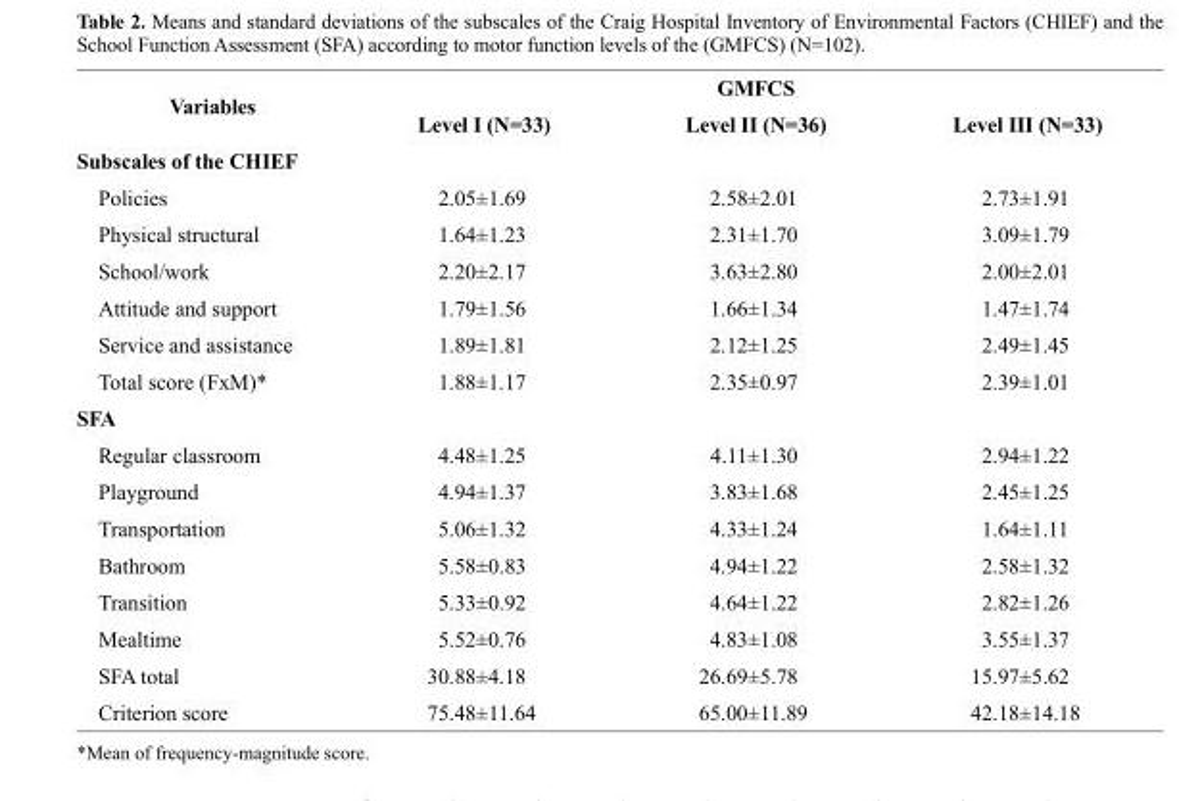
<table><thead><tr><td rowspan="2">Variables</td><td colspan="3">GMFCS</td></tr><tr><td>Level I (N=33)</td><td>Level II (N=36)</td><td>Level III (N=33)</td></tr></thead><tbody><tr><td colspan="4">Subscales of the CHIEF</td></tr><tr><td>Policies</td><td>2.05±1.69</td><td>2.58±2.01</td><td>2.73±1.91</td></tr><tr><td>Physical structural</td><td>1.64±1.23</td><td>2.31±1.70</td><td>3.09±1.79</td></tr><tr><td>School/work</td><td>2.20±2.17</td><td>3.63±2.80</td><td>2.00±2.01</td></tr><tr><td>Attitude and support</td><td>1.79±1.56</td><td>1.66±1.34</td><td>1.47±1.74</td></tr><tr><td>Service and assistance</td><td>1.89±1.81</td><td>2.12±1.25</td><td>2.49±1.45</td></tr><tr><td>Total score (FxM)*</td><td>1.88±1.17</td><td>2.35±0.97</td><td>2.39±1.01</td></tr><tr><td colspan="4">SFA</td></tr><tr><td>Regular classroom</td><td>4.48±1.25</td><td>4.11±1.30</td><td>2.94±1.22</td></tr><tr><td>Playground</td><td>4.94±1.37</td><td>3.83±1.68</td><td>2.45±1.25</td></tr><tr><td>Transportation</td><td>5.06±1.32</td><td>4.33±1.24</td><td>1.64±1.11</td></tr><tr><td>Bathroom</td><td>5.58±0.83</td><td>4.94±1.22</td><td>2.58±1.32</td></tr><tr><td>Transition</td><td>5.33±0.92</td><td>4.64±1.22</td><td>2.82±1.26</td></tr><tr><td>Mealtime</td><td>5.52±0.76</td><td>4.83±1.08</td><td>3.55±1.37</td></tr><tr><td>SFA total</td><td>30.88±4.18</td><td>26.69±5.78</td><td>15.97±5.62</td></tr><tr><td>Criterion score</td><td>75.48±11.64</td><td>65.00±11.89</td><td>42.18±14.18</td></tr></tbody></table>